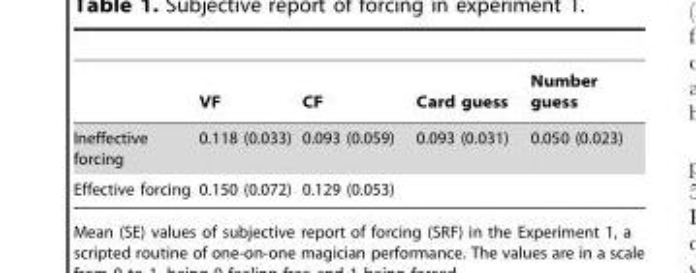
<table><thead><tr><td></td><td>VF</td><td>CF</td><td>Card guess</td><td>Number guess</td></tr></thead><tbody><tr><td>Ineffective forcing</td><td>0.118 (0.033)</td><td>0.093 (0.059)</td><td>0.093 (0.031)</td><td>0.050 (0.023)</td></tr><tr><td>Effective forcing</td><td>0.150 (0.072)</td><td>0.129 (0.053)</td><td></td><td></td></tr></tbody></table>